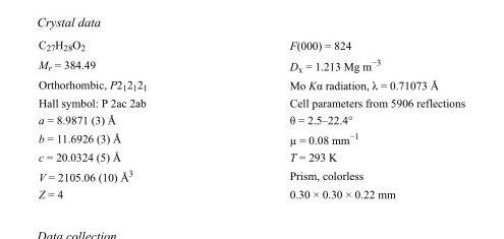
<table><tbody><tr><td>C<sub>27</sub>H<sub>28</sub>O<sub>2</sub></td><td>F(000) = 824</td></tr><tr><td>M<sub>r</sub> = 384.49</td><td>D<sub>x</sub> = 1.213 Mg m<sup>−3</sup></td></tr><tr><td>Orthorhombic, P2<sub>1</sub>2<sub>1</sub>2<sub>1</sub></td><td>Mo Kα radiation, λ = 0.71073 Å</td></tr><tr><td>Hall symbol: P 2ac 2ab</td><td>Cell parameters from 5906 reflections</td></tr><tr><td>a = 8.9871 (3) Å</td><td>θ = 2.5–22.4°</td></tr><tr><td>b = 11.6926 (3) Å</td><td>µ = 0.08 mm<sup>−1</sup></td></tr><tr><td>c = 20.0324 (5) Å</td><td>T = 293 K</td></tr><tr><td>V = 2105.06 (10) Å<sup>3</sup></td><td>Prism, colorless</td></tr><tr><td>Z = 4</td><td>0.30 × 0.30 × 0.22 mm</td></tr></tbody></table>